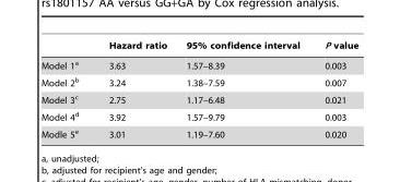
<table><thead><tr><td></td><td>Hazard ratio</td><td>95% confidence interval</td><td>P value</td></tr></thead><tbody><tr><td>Model 1<sup>a</sup></td><td>3.63</td><td>1.57–8.39</td><td>0.003</td></tr><tr><td>Model 2<sup>b</sup></td><td>3.24</td><td>1.38–7.59</td><td>0.007</td></tr><tr><td>Model 3<sup>c</sup></td><td>2.75</td><td>1.17–6.48</td><td>0.021</td></tr><tr><td>Model 4<sup>d</sup></td><td>3.92</td><td>1.57–9.79</td><td>0.003</td></tr><tr><td>Modle 5<sup>e</sup></td><td>3.01</td><td>1.19–7.60</td><td>0.020</td></tr></tbody></table>